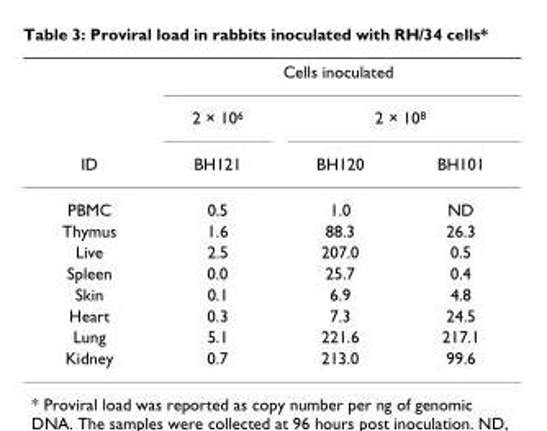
<table><thead><tr><td rowspan="3">ID</td><td colspan="3">Cells inoculated</td></tr><tr><td rowspan="2">2 × 10<sup>6</sup> BH121</td><td colspan="2">2 × 10<sup>8</sup></td></tr><tr><td>BH120</td><td>BH101</td></tr></thead><tbody><tr><td>PBMC</td><td>0.5</td><td>1.0</td><td>ND</td></tr><tr><td>Thymus</td><td>1.6</td><td>88.3</td><td>26.3</td></tr><tr><td>Live</td><td>2.5</td><td>207.0</td><td>0.5</td></tr><tr><td>Spleen</td><td>0.0</td><td>25.7</td><td>0.4</td></tr><tr><td>Skin</td><td>0.1</td><td>6.9</td><td>4.8</td></tr><tr><td>Heart</td><td>0.3</td><td>7.3</td><td>24.5</td></tr><tr><td>Lung</td><td>5.1</td><td>221.6</td><td>217.1</td></tr><tr><td>Kidney</td><td>0.7</td><td>213.0</td><td>99.6</td></tr></tbody></table>